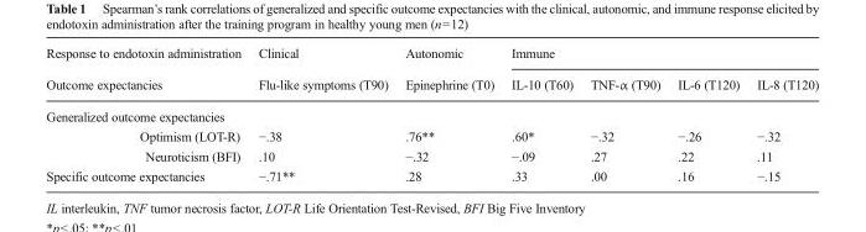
<table><thead><tr><td rowspan="2">Response to endotoxin administration Outcome expectancies</td><td rowspan="2">Clinical Flu-like symptoms (T90)</td><td rowspan="2">Autonomic Epinephrine (T0)</td><td colspan="4">Immune</td></tr><tr><td>IL-10 (T60)</td><td>TNF-α (T90)</td><td>IL-6 (T120)</td><td>IL-8 (T120)</td></tr></thead><tbody><tr><td colspan="7">Generalized outcome expectancies</td></tr><tr><td>Optimism (LOT-R)</td><td>−.38</td><td>.76**</td><td>.60*</td><td>−.32</td><td>−.26</td><td>−.32</td></tr><tr><td>Neuroticism (BFI)</td><td>.10</td><td>−.32</td><td>−.09</td><td>.27</td><td>.22</td><td>.11</td></tr><tr><td>Specific outcome expectancies</td><td>−.71**</td><td>.28</td><td>.33</td><td>.00</td><td>.16</td><td>−.15</td></tr></tbody></table>